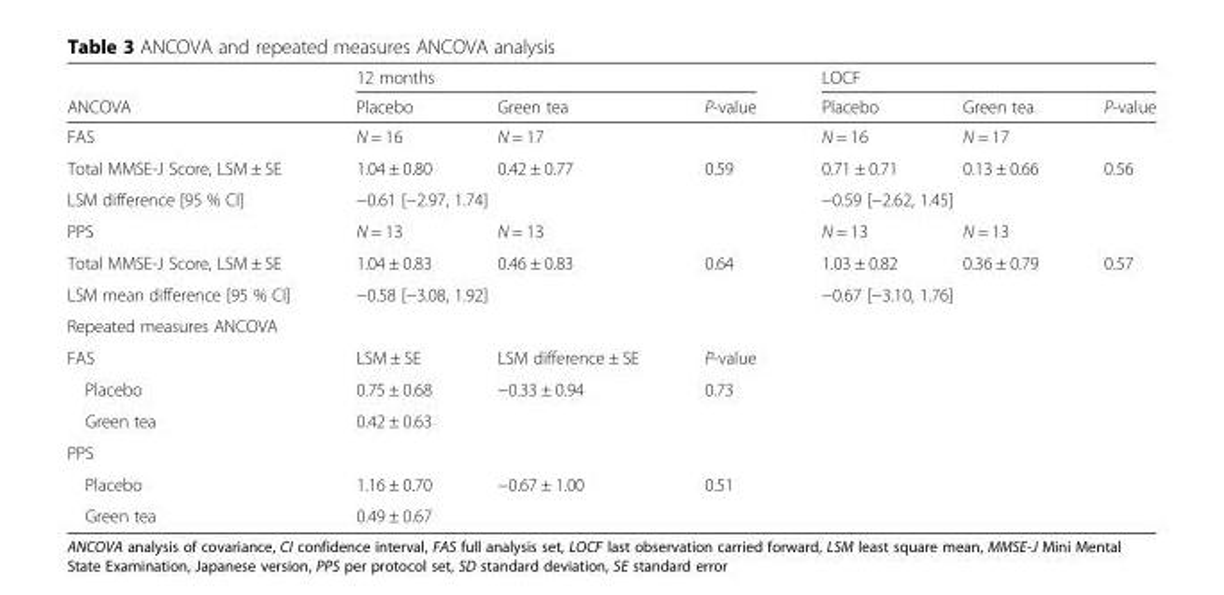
<table><thead><tr><td rowspan="2">ANCOVA</td><td colspan="3">12 months</td><td colspan="3">LOCF</td></tr><tr><td>Placebo</td><td>Green tea</td><td>P-value</td><td>Placebo</td><td>Green tea</td><td>P-value</td></tr></thead><tbody><tr><td>FAS</td><td>N = 16</td><td>N = 17</td><td></td><td>N = 16</td><td>N = 17</td><td></td></tr><tr><td>Total MMSE-J Score, LSM ± SE</td><td>1.04 ± 0.80</td><td>0.42 ± 0.77</td><td>0.59</td><td>0.71 ± 0.71</td><td>0.13 ± 0.66</td><td>0.56</td></tr><tr><td>LSM difference [95 % CI]</td><td colspan="2">−0.61 [−2.97, 1.74]</td><td></td><td colspan="2">−0.59 [−2.62, 1.45]</td><td></td></tr><tr><td>PPS</td><td>N = 13</td><td>N = 13</td><td></td><td>N = 13</td><td>N = 13</td><td></td></tr><tr><td>Total MMSE-J Score, LSM ± SE</td><td>1.04 ± 0.83</td><td>0.46 ± 0.83</td><td>0.64</td><td>1.03 ± 0.82</td><td>0.36 ± 0.79</td><td>0.57</td></tr><tr><td>LSM mean difference [95 % CI]</td><td colspan="2">−0.58 [−3.08, 1.92]</td><td></td><td colspan="2">−0.67 [−3.10, 1.76]</td><td></td></tr><tr><td colspan="7">Repeated measures ANCOVA</td></tr><tr><td>FAS</td><td>LSM ± SE</td><td>LSM difference ± SE</td><td colspan="4">P-value</td></tr><tr><td>Placebo</td><td>0.75 ± 0.68</td><td>−0.33 ± 0.94</td><td colspan="4">0.73</td></tr><tr><td>Green tea</td><td>0.42 ± 0.63</td><td></td><td colspan="4"></td></tr><tr><td colspan="7">PPS</td></tr><tr><td>Placebo</td><td>1.16 ± 0.70</td><td>−0.67 ± 1.00</td><td colspan="4">0.51</td></tr><tr><td>Green tea</td><td>0.49 ± 0.67</td><td></td><td colspan="4"></td></tr></tbody></table>